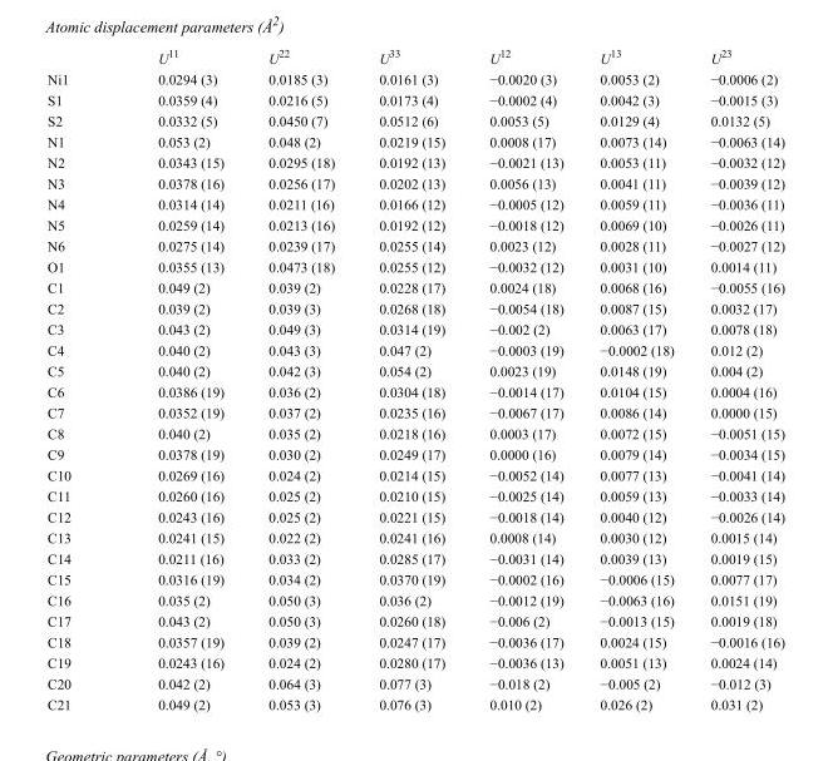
<table><thead><tr><td></td><td>U<sup>11</sup></td><td>U<sup>22</sup></td><td>U<sup>33</sup></td><td>U<sup>12</sup></td><td>U<sup>13</sup></td><td>U<sup>23</sup></td></tr></thead><tbody><tr><td>Ni1</td><td>0.0294 (3)</td><td>0.0185 (3)</td><td>0.0161 (3)</td><td>−0.0020 (3)</td><td>0.0053 (2)</td><td>−0.0006 (2)</td></tr><tr><td>S1</td><td>0.0359 (4)</td><td>0.0216 (5)</td><td>0.0173 (4)</td><td>−0.0002 (4)</td><td>0.0042 (3)</td><td>−0.0015 (3)</td></tr><tr><td>S2</td><td>0.0332 (5)</td><td>0.0450 (7)</td><td>0.0512 (6)</td><td>0.0053 (5)</td><td>0.0129 (4)</td><td>0.0132 (5)</td></tr><tr><td>N1</td><td>0.053 (2)</td><td>0.048 (2)</td><td>0.0219 (15)</td><td>0.0008 (17)</td><td>0.0073 (14)</td><td>−0.0063 (14)</td></tr><tr><td>N2</td><td>0.0343 (15)</td><td>0.0295 (18)</td><td>0.0192 (13)</td><td>−0.0021 (13)</td><td>0.0053 (11)</td><td>−0.0032 (12)</td></tr><tr><td>N3</td><td>0.0378 (16)</td><td>0.0256 (17)</td><td>0.0202 (13)</td><td>0.0056 (13)</td><td>0.0041 (11)</td><td>−0.0039 (12)</td></tr><tr><td>N4</td><td>0.0314 (14)</td><td>0.0211 (16)</td><td>0.0166 (12)</td><td>−0.0005 (12)</td><td>0.0059 (11)</td><td>−0.0036 (11)</td></tr><tr><td>N5</td><td>0.0259 (14)</td><td>0.0213 (16)</td><td>0.0192 (12)</td><td>−0.0018 (12)</td><td>0.0069 (10)</td><td>−0.0026 (11)</td></tr><tr><td>N6</td><td>0.0275 (14)</td><td>0.0239 (17)</td><td>0.0255 (14)</td><td>0.0023 (12)</td><td>0.0028 (11)</td><td>−0.0027 (12)</td></tr><tr><td>O1</td><td>0.0355 (13)</td><td>0.0473 (18)</td><td>0.0255 (12)</td><td>−0.0032 (12)</td><td>0.0031 (10)</td><td>0.0014 (11)</td></tr><tr><td>C1</td><td>0.049 (2)</td><td>0.039 (2)</td><td>0.0228 (17)</td><td>0.0024 (18)</td><td>0.0068 (16)</td><td>−0.0055 (16)</td></tr><tr><td>C2</td><td>0.039 (2)</td><td>0.039 (3)</td><td>0.0268 (18)</td><td>−0.0054 (18)</td><td>0.0087 (15)</td><td>0.0032 (17)</td></tr><tr><td>C3</td><td>0.043 (2)</td><td>0.049 (3)</td><td>0.0314 (19)</td><td>−0.002 (2)</td><td>0.0063 (17)</td><td>0.0078 (18)</td></tr><tr><td>C4</td><td>0.040 (2)</td><td>0.043 (3)</td><td>0.047 (2)</td><td>−0.0003 (19)</td><td>−0.0002 (18)</td><td>0.012 (2)</td></tr><tr><td>C5</td><td>0.040 (2)</td><td>0.042 (3)</td><td>0.054 (2)</td><td>0.0023 (19)</td><td>0.0148 (19)</td><td>0.004 (2)</td></tr><tr><td>C6</td><td>0.0386 (19)</td><td>0.036 (2)</td><td>0.0304 (18)</td><td>−0.0014 (17)</td><td>0.0104 (15)</td><td>0.0004 (16)</td></tr><tr><td>C7</td><td>0.0352 (19)</td><td>0.037 (2)</td><td>0.0235 (16)</td><td>−0.0067 (17)</td><td>0.0086 (14)</td><td>0.0000 (15)</td></tr><tr><td>C8</td><td>0.040 (2)</td><td>0.035 (2)</td><td>0.0218 (16)</td><td>0.0003 (17)</td><td>0.0072 (15)</td><td>−0.0051 (15)</td></tr><tr><td>C9</td><td>0.0378 (19)</td><td>0.030 (2)</td><td>0.0249 (17)</td><td>0.0000 (16)</td><td>0.0079 (14)</td><td>−0.0034 (15)</td></tr><tr><td>C10</td><td>0.0269 (16)</td><td>0.024 (2)</td><td>0.0214 (15)</td><td>−0.0052 (14)</td><td>0.0077 (13)</td><td>−0.0041 (14)</td></tr><tr><td>C11</td><td>0.0260 (16)</td><td>0.025 (2)</td><td>0.0210 (15)</td><td>−0.0025 (14)</td><td>0.0059 (13)</td><td>−0.0033 (14)</td></tr><tr><td>C12</td><td>0.0243 (16)</td><td>0.025 (2)</td><td>0.0221 (15)</td><td>−0.0018 (14)</td><td>0.0040 (12)</td><td>−0.0026 (14)</td></tr><tr><td>C13</td><td>0.0241 (15)</td><td>0.022 (2)</td><td>0.0241 (16)</td><td>0.0008 (14)</td><td>0.0030 (12)</td><td>0.0015 (14)</td></tr><tr><td>C14</td><td>0.0211 (16)</td><td>0.033 (2)</td><td>0.0285 (17)</td><td>−0.0031 (14)</td><td>0.0039 (13)</td><td>0.0019 (15)</td></tr><tr><td>C15</td><td>0.0316 (19)</td><td>0.034 (2)</td><td>0.0370 (19)</td><td>−0.0002 (16)</td><td>−0.0006 (15)</td><td>0.0077 (17)</td></tr><tr><td>C16</td><td>0.035 (2)</td><td>0.050 (3)</td><td>0.036 (2)</td><td>−0.0012 (19)</td><td>−0.0063 (16)</td><td>0.0151 (19)</td></tr><tr><td>C17</td><td>0.043 (2)</td><td>0.050 (3)</td><td>0.0260 (18)</td><td>−0.006 (2)</td><td>−0.0013 (15)</td><td>0.0019 (18)</td></tr><tr><td>C18</td><td>0.0357 (19)</td><td>0.039 (2)</td><td>0.0247 (17)</td><td>−0.0036 (17)</td><td>0.0024 (15)</td><td>−0.0016 (16)</td></tr><tr><td>C19</td><td>0.0243 (16)</td><td>0.024 (2)</td><td>0.0280 (17)</td><td>−0.0036 (13)</td><td>0.0051 (13)</td><td>0.0024 (14)</td></tr><tr><td>C20</td><td>0.042 (2)</td><td>0.064 (3)</td><td>0.077 (3)</td><td>−0.018 (2)</td><td>−0.005 (2)</td><td>−0.012 (3)</td></tr><tr><td>C21</td><td>0.049 (2)</td><td>0.053 (3)</td><td>0.076 (3)</td><td>0.010 (2)</td><td>0.026 (2)</td><td>0.031 (2)</td></tr></tbody></table>